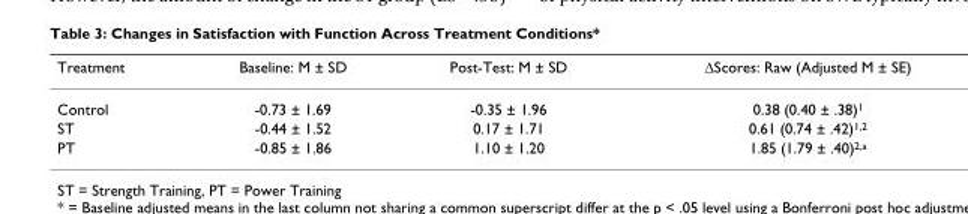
<table><thead><tr><td>Treatment</td><td>Baseline: M ± SD</td><td>Post-Test: M ± SD</td><td>ΔScores: Raw (Adjusted M ± SE)</td></tr></thead><tbody><tr><td>Control</td><td>-0.73 ± 1.69</td><td>-0.35 ± 1.96</td><td>0.38 (0.40 ± .38)<sup>1</sup></td></tr><tr><td>ST</td><td>-0.44 ± 1.52</td><td>0.17 ± 1.71</td><td>0.61 (0.74 ± .42)<sup>1,2</sup></td></tr><tr><td>PT</td><td>-0.85 ± 1.86</td><td>1.10 ± 1.20</td><td>1.85 (1.79 ± .40)<sup>2,a</sup></td></tr></tbody></table>